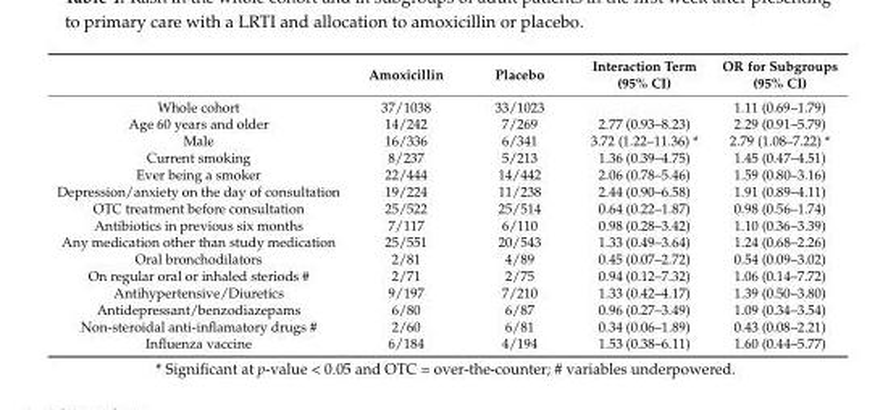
<table><thead><tr><td></td><td>Amoxicillin</td><td>Placebo</td><td>Interaction Term (95% CI)</td><td>OR for Subgroups (95% CI)</td></tr></thead><tbody><tr><td>Whole cohort</td><td>37/1038</td><td>33/1023</td><td></td><td>1.11 (0.69–1.79)</td></tr><tr><td>Age 60 years and older</td><td>14/242</td><td>7/269</td><td>2.77 (0.93–8.23)</td><td>2.29 (0.91–5.79)</td></tr><tr><td>Male</td><td>16/336</td><td>6/341</td><td>3.72 (1.22–11.36) *</td><td>2.79 (1.08–7.22) *</td></tr><tr><td>Current smoking</td><td>8/237</td><td>5/213</td><td>1.36 (0.39–4.75)</td><td>1.45 (0.47–4.51)</td></tr><tr><td>Ever being a smoker</td><td>22/444</td><td>14/442</td><td>2.06 (0.78–5.46)</td><td>1.59 (0.80–3.16)</td></tr><tr><td>Depression/anxiety on the day of consultation</td><td>19/224</td><td>11/238</td><td>2.44 (0.90–6.58)</td><td>1.91 (0.89–4.11)</td></tr><tr><td>OTC treatment before consultation</td><td>25/522</td><td>25/514</td><td>0.64 (0.22–1.87)</td><td>0.98 (0.56–1.74)</td></tr><tr><td>Antibiotics in previous six months</td><td>7/117</td><td>6/110</td><td>0.98 (0.28–3.42)</td><td>1.10 (0.36–3.39)</td></tr><tr><td>Any medication other than study medication</td><td>25/551</td><td>20/543</td><td>1.33 (0.49–3.64)</td><td>1.24 (0.68–2.26)</td></tr><tr><td>Oral bronchodilators</td><td>2/81</td><td>4/89</td><td>0.45 (0.07–2.72)</td><td>0.54 (0.09–3.02)</td></tr><tr><td>On regular oral or inhaled steriods #</td><td>2/71</td><td>2/75</td><td>0.94 (0.12–7.32)</td><td>1.06 (0.14–7.72)</td></tr><tr><td>Antihypertensive/Diuretics</td><td>9/197</td><td>7/210</td><td>1.33 (0.42–4.17)</td><td>1.39 (0.50–3.80)</td></tr><tr><td>Antidepressant/benzodiazepams</td><td>6/80</td><td>6/87</td><td>0.96 (0.27–3.49)</td><td>1.09 (0.34–3.54)</td></tr><tr><td>Non-steroidal anti-inflamatory drugs #</td><td>2/60</td><td>6/81</td><td>0.34 (0.06–1.89)</td><td>0.43 (0.08–2.21)</td></tr><tr><td>Influenza vaccine</td><td>6/184</td><td>4/194</td><td>1.53 (0.38–6.11)</td><td>1.60 (0.44–5.77)</td></tr></tbody></table>